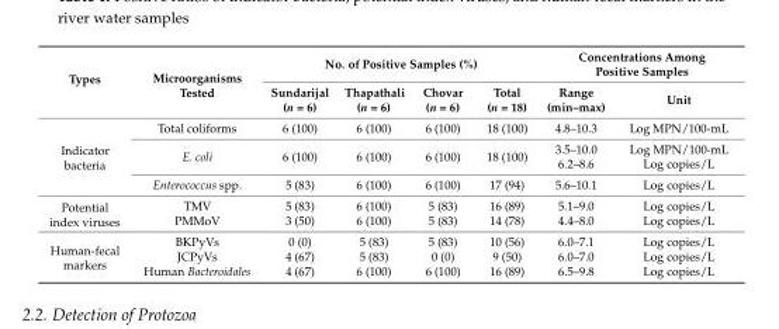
<table><thead><tr><td rowspan="2">Types</td><td rowspan="2">Microorganisms Tested</td><td colspan="4">No. of Positive Samples (%)</td><td colspan="2">Concentrations Among Positive Samples</td></tr><tr><td>Sundarijal (n = 6)</td><td>Thapathali (n = 6)</td><td>Chovar (n = 6)</td><td>Total (n = 18)</td><td>Range (min–max)</td><td>Unit</td></tr></thead><tbody><tr><td rowspan="3">Indicator bacteria</td><td>Total coliforms</td><td>6 (100)</td><td>6 (100)</td><td>6 (100)</td><td>18 (100)</td><td>4.8–10.3</td><td>Log MPN/100-mL</td></tr><tr><td>E. coli</td><td>6 (100)</td><td>6 (100)</td><td>6 (100)</td><td>18 (100)</td><td>3.5–10.0 6.2–8.6</td><td>Log MPN/100-mL Log copies/L</td></tr><tr><td>Enterococcus spp.</td><td>5 (83)</td><td>6 (100)</td><td>6 (100)</td><td>17 (94)</td><td>5.6–10.1</td><td>Log copies/L</td></tr><tr><td rowspan="2">Potential index viruses</td><td>TMV</td><td>5 (83)</td><td>6 (100)</td><td>5 (83)</td><td>16 (89)</td><td>5.1–9.0</td><td>Log copies/L</td></tr><tr><td>PMMoV</td><td>3 (50)</td><td>6 (100)</td><td>5 (83)</td><td>14 (78)</td><td>4.4–8.0</td><td>Log copies/L</td></tr><tr><td rowspan="3">Human-fecal markers</td><td>BKPyVs</td><td>0 (0)</td><td>5 (83)</td><td>5 (83)</td><td>10 (56)</td><td>6.0–7.1</td><td>Log copies/L</td></tr><tr><td>JCPyVs</td><td>4 (67)</td><td>5 (83)</td><td>0 (0)</td><td>9 (50)</td><td>6.0–7.0</td><td>Log copies/L</td></tr><tr><td>Human Bacteroidales</td><td>4 (67)</td><td>6 (100)</td><td>6 (100)</td><td>16 (89)</td><td>6.5–9.8</td><td>Log copies/L</td></tr></tbody></table>